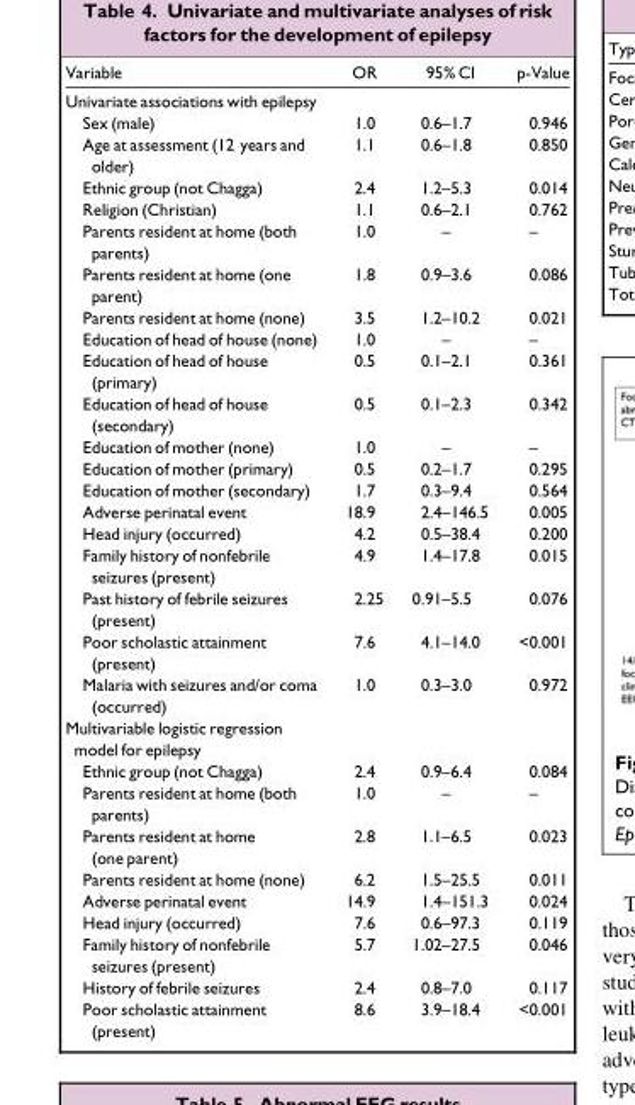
<table><thead><tr><td>Variable</td><td>OR</td><td>95% CI</td><td>p-Value</td></tr></thead><tbody><tr><td colspan="4">Univariate associations with epilepsy</td></tr><tr><td>Sex (male)</td><td>1.0</td><td>0.6–1.7</td><td>0.946</td></tr><tr><td>Age at assessment (12 years and older)</td><td>1.1</td><td>0.6–1.8</td><td>0.850</td></tr><tr><td>Ethnic group (not Chagga)</td><td>2.4</td><td>1.2–5.3</td><td>0.014</td></tr><tr><td>Religion (Christian)</td><td>1.1</td><td>0.6–2.1</td><td>0.762</td></tr><tr><td>Parents resident at home (both parents)</td><td>1.0</td><td>–</td><td>–</td></tr><tr><td>Parents resident at home (one parent)</td><td>1.8</td><td>0.9–3.6</td><td>0.086</td></tr><tr><td>Parents resident at home (none)</td><td>3.5</td><td>1.2–10.2</td><td>0.021</td></tr><tr><td>Education of head of house (none)</td><td>1.0</td><td>–</td><td>–</td></tr><tr><td>Education of head of house (primary)</td><td>0.5</td><td>0.1–2.1</td><td>0.361</td></tr><tr><td>Education of head of house (secondary)</td><td>0.5</td><td>0.1–2.3</td><td>0.342</td></tr><tr><td>Education of mother (none)</td><td>1.0</td><td>–</td><td>–</td></tr><tr><td>Education of mother (primary)</td><td>0.5</td><td>0.2–1.7</td><td>0.295</td></tr><tr><td>Education of mother (secondary)</td><td>1.7</td><td>0.3–9.4</td><td>0.564</td></tr><tr><td>Adverse perinatal event</td><td>18.9</td><td>2.4–146.5</td><td>0.005</td></tr><tr><td>Head injury (occurred)</td><td>4.2</td><td>0.5–38.4</td><td>0.200</td></tr><tr><td>Family history of nonfebrile seizures (present)</td><td>4.9</td><td>1.4–17.8</td><td>0.015</td></tr><tr><td>Past history of febrile seizures (present)</td><td>2.25</td><td>0.91–5.5</td><td>0.076</td></tr><tr><td>Poor scholastic attainment (present)</td><td>7.6</td><td>4.1–14.0</td><td>&lt;0.001</td></tr><tr><td>Malaria with seizures and/or coma (occurred)</td><td>1.0</td><td>0.3–3.0</td><td>0.972</td></tr><tr><td colspan="4">Multivariable logistic regression model for epilepsy</td></tr><tr><td>Ethnic group (not Chagga)</td><td>2.4</td><td>0.9–6.4</td><td>0.084</td></tr><tr><td>Parents resident at home (both parents)</td><td>1.0</td><td>–</td><td>–</td></tr><tr><td>Parents resident at home (one parent)</td><td>2.8</td><td>1.1–6.5</td><td>0.023</td></tr><tr><td>Parents resident at home (none)</td><td>6.2</td><td>1.5–25.5</td><td>0.011</td></tr><tr><td>Adverse perinatal event</td><td>14.9</td><td>1.4–151.3</td><td>0.024</td></tr><tr><td>Head injury (occurred)</td><td>7.6</td><td>0.6–97.3</td><td>0.119</td></tr><tr><td>Family history of nonfebrile seizures (present)</td><td>5.7</td><td>1.02–27.5</td><td>0.046</td></tr><tr><td>History of febrile seizures</td><td>2.4</td><td>0.8–7.0</td><td>0.117</td></tr><tr><td>Poor scholastic attainment (present)</td><td>8.6</td><td>3.9–18.4</td><td>&lt;0.001</td></tr></tbody></table>